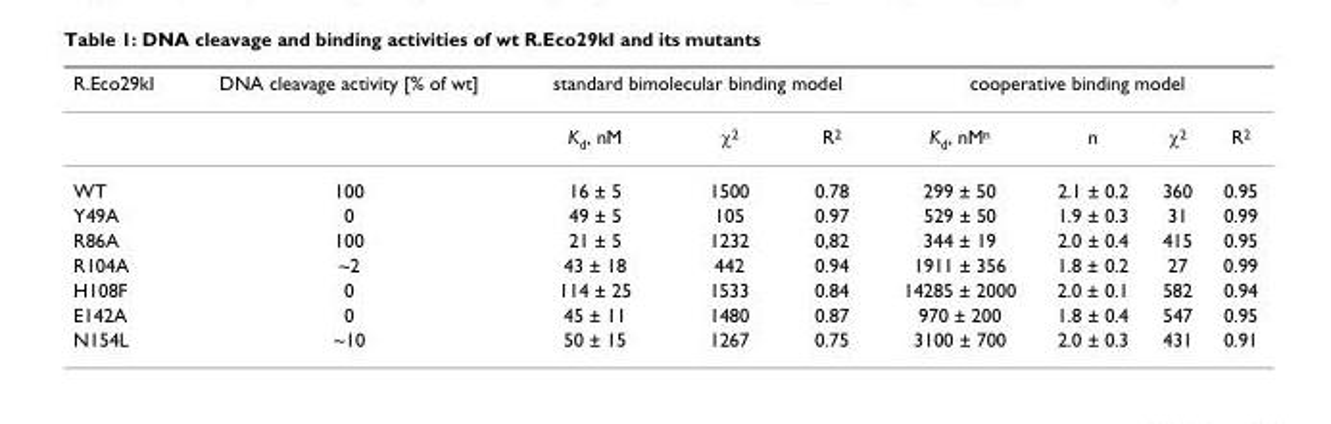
<table><thead><tr><td rowspan="2">R.Eco29kI</td><td rowspan="2">DNA cleavage activity [% of wt]</td><td colspan="3">standard bimolecular binding model</td><td colspan="4">cooperative binding model</td></tr><tr><td>K<sub>d</sub>, nM</td><td>χ<sup>2</sup></td><td>R<sup>2</sup></td><td>K<sub>d</sub>, nM<sup>n</sup></td><td>n</td><td>χ<sup>2</sup></td><td>R<sup>2</sup></td></tr></thead><tbody><tr><td>WT</td><td>100</td><td>16 ± 5</td><td>1500</td><td>0.78</td><td>299 ± 50</td><td>2.1 ± 0.2</td><td>360</td><td>0.95</td></tr><tr><td>Y49A</td><td>0</td><td>49 ± 5</td><td>105</td><td>0.97</td><td>529 ± 50</td><td>1.9 ± 0.3</td><td>31</td><td>0.99</td></tr><tr><td>R86A</td><td>100</td><td>21 ± 5</td><td>1232</td><td>0,82</td><td>344 ± 19</td><td>2.0 ± 0.4</td><td>415</td><td>0.95</td></tr><tr><td>R104A</td><td>~2</td><td>43 ± 18</td><td>442</td><td>0.94</td><td>1911 ± 356</td><td>1.8 ± 0.2</td><td>27</td><td>0.99</td></tr><tr><td>H108F</td><td>0</td><td>114 ± 25</td><td>1533</td><td>0.84</td><td>14285 ± 2000</td><td>2.0 ± 0.1</td><td>582</td><td>0.94</td></tr><tr><td>E142A</td><td>0</td><td>45 ± 11</td><td>1480</td><td>0.87</td><td>970 ± 200</td><td>1.8 ± 0.4</td><td>547</td><td>0.95</td></tr><tr><td>N154L</td><td>~10</td><td>50 ± 15</td><td>1267</td><td>0.75</td><td>3100 ± 700</td><td>2.0 ± 0.3</td><td>431</td><td>0.91</td></tr></tbody></table>